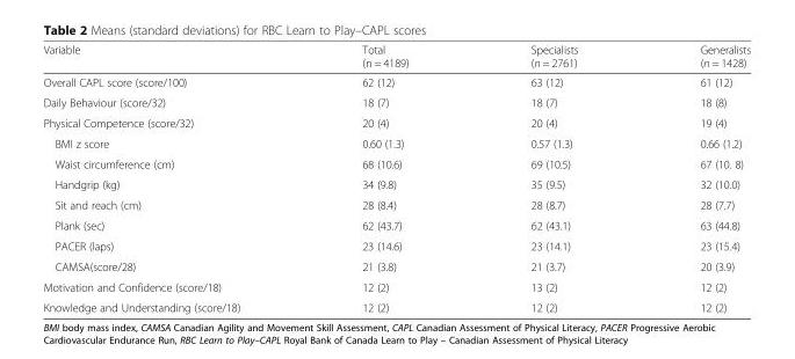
<table><thead><tr><td>Variable</td><td>Total (n = 4189)</td><td>Specialists (n = 2761)</td><td>Generalists (n = 1428)</td></tr></thead><tbody><tr><td>Overall CAPL score (score/100)</td><td>62 (12)</td><td>63 (12)</td><td>61 (12)</td></tr><tr><td>Daily Behaviour (score/32)</td><td>18 (7)</td><td>18 (7)</td><td>18 (8)</td></tr><tr><td>Physical Competence (score/32)</td><td>20 (4)</td><td>20 (4)</td><td>19 (4)</td></tr><tr><td>BMI z score</td><td>0.60 (1.3)</td><td>0.57 (1.3)</td><td>0.66 (1.2)</td></tr><tr><td>Waist circumference (cm)</td><td>68 (10.6)</td><td>69 (10.5)</td><td>67 (10. 8)</td></tr><tr><td>Handgrip (kg)</td><td>34 (9.8)</td><td>35 (9.5)</td><td>32 (10.0)</td></tr><tr><td>Sit and reach (cm)</td><td>28 (8.4)</td><td>28 (8.7)</td><td>28 (7.7)</td></tr><tr><td>Plank (sec)</td><td>62 (43.7)</td><td>62 (43.1)</td><td>63 (44.8)</td></tr><tr><td>PACER (laps)</td><td>23 (14.6)</td><td>23 (14.1)</td><td>23 (15.4)</td></tr><tr><td>CAMSA(score/28)</td><td>21 (3.8)</td><td>21 (3.7)</td><td>20 (3.9)</td></tr><tr><td>Motivation and Confidence (score/18)</td><td>12 (2)</td><td>13 (2)</td><td>12 (2)</td></tr><tr><td>Knowledge and Understanding (score/18)</td><td>12 (2)</td><td>12 (2)</td><td>12 (2)</td></tr></tbody></table>